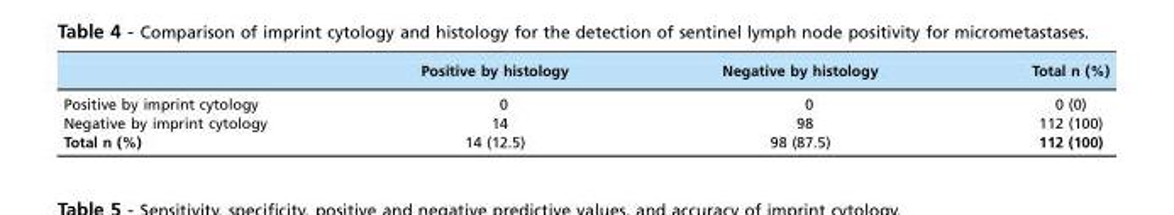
<table><thead><tr><td></td><td>Positive by histology</td><td>Negative by histology</td><td>Total n (%)</td></tr></thead><tbody><tr><td>Positive by imprint cytology</td><td>0</td><td>0</td><td>0 (0)</td></tr><tr><td>Negative by imprint cytology</td><td>14</td><td>98</td><td>112 (100)</td></tr><tr><td>Total n (%)</td><td>14 (12.5)</td><td>98 (87.5)</td><td>112 (100)</td></tr></tbody></table>